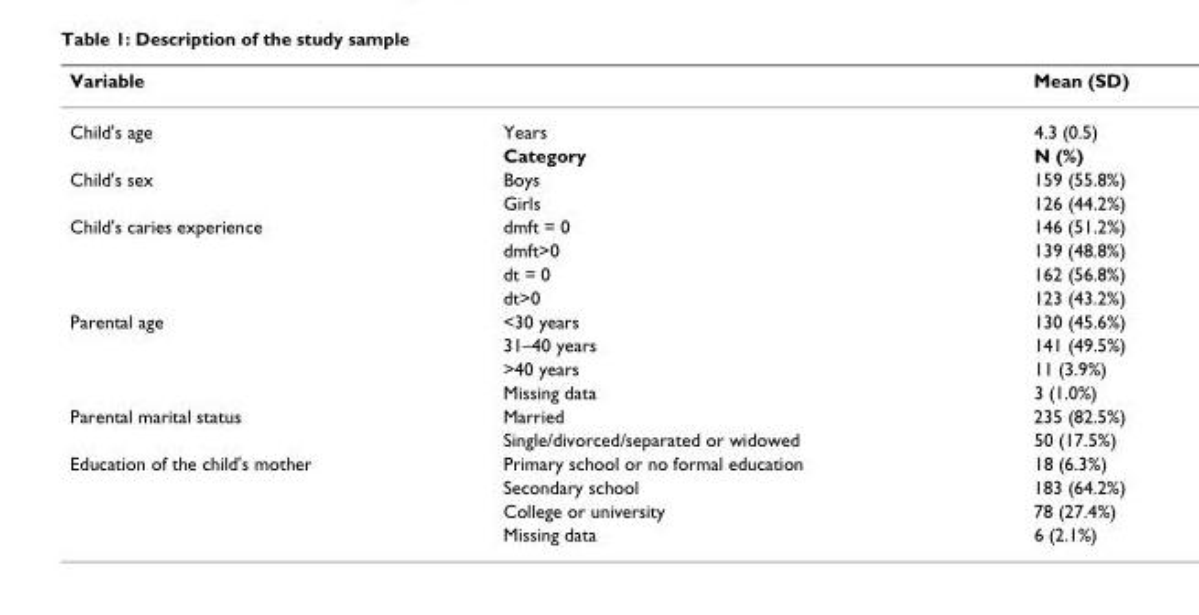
<table><thead><tr><td>Variable</td><td></td><td>Mean (SD)</td></tr></thead><tbody><tr><td rowspan="2">Child&#x27;s age</td><td>Years</td><td>4.3 (0.5)</td></tr><tr><td>Category</td><td>N (%)</td></tr><tr><td rowspan="2">Child&#x27;s sex</td><td>Boys</td><td>159 (55.8%)</td></tr><tr><td>Girls</td><td>126 (44.2%)</td></tr><tr><td rowspan="4">Child&#x27;s caries experience</td><td>dmft = 0</td><td>146 (51.2%)</td></tr><tr><td>dmft&gt;0</td><td>139 (48.8%)</td></tr><tr><td>dt = 0</td><td>162 (56.8%)</td></tr><tr><td>dt&gt;0</td><td>123 (43.2%)</td></tr><tr><td rowspan="4">Parental age</td><td>&lt;30 years</td><td>130 (45.6%)</td></tr><tr><td>31–40 years</td><td>141 (49.5%)</td></tr><tr><td>&gt;40 years</td><td>11 (3.9%)</td></tr><tr><td>Missing data</td><td>3 (1.0%)</td></tr><tr><td rowspan="2">Parental marital status</td><td>Married</td><td>235 (82.5%)</td></tr><tr><td>Single/divorced/separated or widowed</td><td>50 (17.5%)</td></tr><tr><td rowspan="4">Education of the child&#x27;s mother</td><td>Primary school or no formal education</td><td>18 (6.3%)</td></tr><tr><td>Secondary school</td><td>183 (64.2%)</td></tr><tr><td>College or university</td><td>78 (27.4%)</td></tr><tr><td>Missing data</td><td>6 (2.1%)</td></tr></tbody></table>